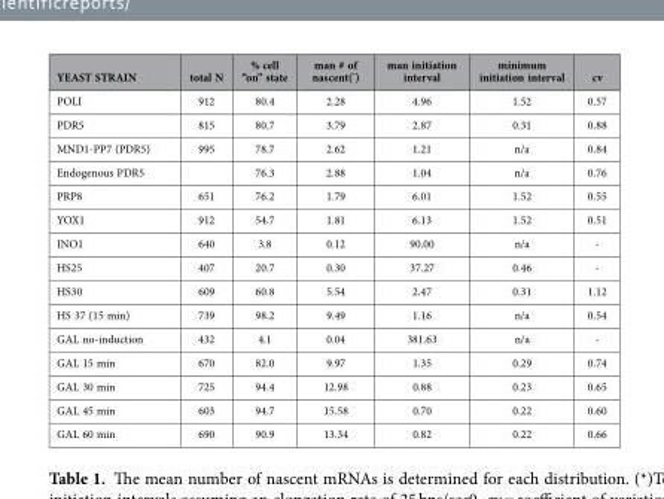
<table><thead><tr><td>YEAST STRAIN</td><td>total N</td><td>% cell “on” state</td><td>man # of nascent(*)</td><td>man initiation interval</td><td>minimum initiation interval</td><td>cv</td></tr></thead><tbody><tr><td>POLI</td><td>912</td><td>80.4</td><td>2.28</td><td>4.96</td><td>1.52</td><td>0.57</td></tr><tr><td>PDR5</td><td>815</td><td>80.7</td><td>3.79</td><td>2.87</td><td>0.31</td><td>0.88</td></tr><tr><td>MND1-PP7 (PDR5)</td><td>995</td><td>78.7</td><td>2.62</td><td>1.21</td><td>n/a</td><td>0.84</td></tr><tr><td>Endogenous PDR5</td><td></td><td>76.3</td><td>2.88</td><td>1.04</td><td>n/a</td><td>0.76</td></tr><tr><td>PRP8</td><td>651</td><td>76.2</td><td>1.79</td><td>6.01</td><td>1.52</td><td>0.55</td></tr><tr><td>YOX1</td><td>912</td><td>54.7</td><td>1.81</td><td>6.13</td><td>1.52</td><td>0.51</td></tr><tr><td>INO1</td><td>640</td><td>3.8</td><td>0.12</td><td>90.00</td><td>n/a</td><td>-</td></tr><tr><td>HS25</td><td>407</td><td>20.7</td><td>0.30</td><td>37.27</td><td>0.46</td><td>-</td></tr><tr><td>HS30</td><td>609</td><td>60.8</td><td>5.54</td><td>2.47</td><td>0.31</td><td>1.12</td></tr><tr><td>HS 37 (15 min)</td><td>739</td><td>98.2</td><td>9.49</td><td>1.16</td><td>n/a</td><td>0.54</td></tr><tr><td>GAL no-induction</td><td>432</td><td>4.1</td><td>0.04</td><td>381.63</td><td>n/a</td><td>-</td></tr><tr><td>GAL 15 min</td><td>670</td><td>82.0</td><td>9.97</td><td>1.35</td><td>0.29</td><td>0.74</td></tr><tr><td>GAL 30 min</td><td>725</td><td>94.4</td><td>12.98</td><td>0.88</td><td>0.23</td><td>0.65</td></tr><tr><td>GAL 45 min</td><td>603</td><td>94.7</td><td>15.58</td><td>0.70</td><td>0.22</td><td>0.60</td></tr><tr><td>GAL 60 min</td><td>690</td><td>90.9</td><td>13.34</td><td>0.82</td><td>0.22</td><td>0.66</td></tr></tbody></table>